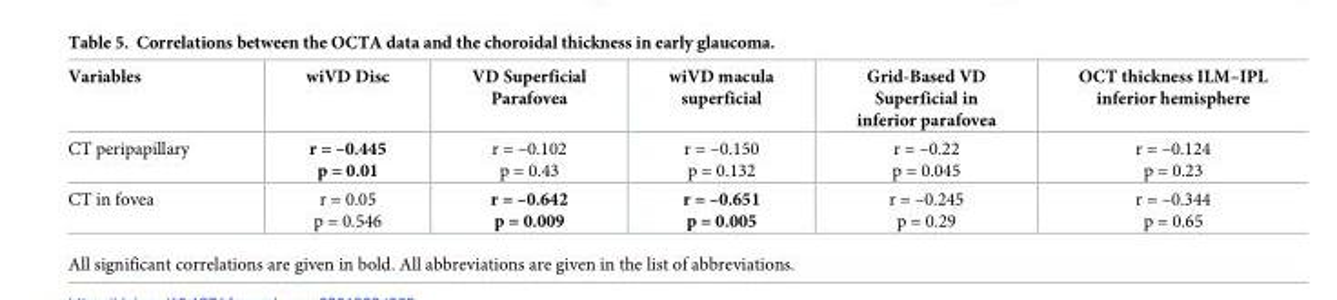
<table><thead><tr><td>Variables</td><td>wiVD Disc</td><td>VD Superficial Parafovea</td><td>wiVD macula superficial</td><td>Grid-Based VD Superficial in inferior parafovea</td><td>OCT thickness ILM–IPL inferior hemisphere</td></tr></thead><tbody><tr><td>CT peripapillary</td><td>r = –0.445 p = 0.01</td><td>r = –0.102 p = 0.43</td><td>r = –0.150 p = 0.132</td><td>r = –0.22 p = 0.045</td><td>r = –0.124 p = 0.23</td></tr><tr><td>CT in fovea</td><td>r = 0.05 p = 0.546</td><td>r = –0.642 p = 0.009</td><td>r = –0.651 p = 0.005</td><td>r = –0.245 p = 0.29</td><td>r = –0.344 p = 0.65</td></tr></tbody></table>